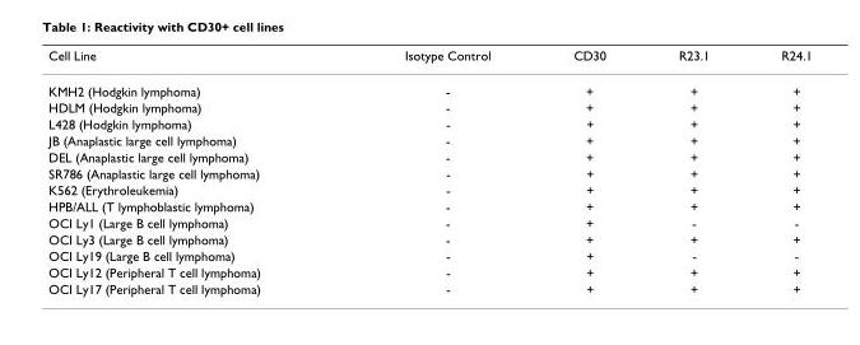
<table><thead><tr><td>Cell Line</td><td>Isotype Control</td><td>CD30</td><td>R23.1</td><td>R24.1</td></tr></thead><tbody><tr><td>KMH2 (Hodgkin lymphoma)</td><td>-</td><td>+</td><td>+</td><td>+</td></tr><tr><td>HDLM (Hodgkin lymphoma)</td><td>-</td><td>+</td><td>+</td><td>+</td></tr><tr><td>L428 (Hodgkin lymphoma)</td><td>-</td><td>+</td><td>+</td><td>+</td></tr><tr><td>JB (Anaplastic large cell lymphoma)</td><td>-</td><td>+</td><td>+</td><td>+</td></tr><tr><td>DEL (Anaplastic large cell lymphoma)</td><td>-</td><td>+</td><td>+</td><td>+</td></tr><tr><td>SR786 (Anaplastic large cell lymphoma)</td><td>-</td><td>+</td><td>+</td><td>+</td></tr><tr><td>K562 (Erythroleukemia)</td><td>-</td><td>+</td><td>+</td><td>+</td></tr><tr><td>HPB/ALL (T lymphoblastic lymphoma)</td><td>-</td><td>+</td><td>+</td><td>+</td></tr><tr><td>OCI Ly1 (Large B cell lymphoma)</td><td>-</td><td>+</td><td>-</td><td>-</td></tr><tr><td>OCI Ly3 (Large B cell lymphoma)</td><td>-</td><td>+</td><td>+</td><td>+</td></tr><tr><td>OCI Ly19 (Large B cell lymphoma)</td><td>-</td><td>+</td><td>-</td><td>-</td></tr><tr><td>OCI Ly12 (Peripheral T cell lymphoma)</td><td>-</td><td>+</td><td>+</td><td>+</td></tr><tr><td>OCI Ly17 (Peripheral T cell lymphoma)</td><td>-</td><td>+</td><td>+</td><td>+</td></tr></tbody></table>